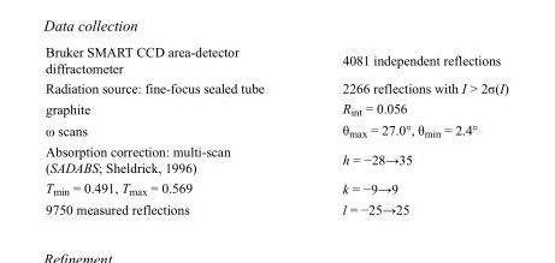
<table><tbody><tr><td>Bruker SMART CCD area-detector diffractometer</td><td>4081 independent reflections</td></tr><tr><td>Radiation source: fine-focus sealed tube</td><td>2266 reflections with I &gt; 2σ(I)</td></tr><tr><td>graphite</td><td>R<sub>int</sub> = 0.056</td></tr><tr><td>ω scans</td><td>θ<sub>max</sub> = 27.0°, θ<sub>min</sub> = 2.4°</td></tr><tr><td>Absorption correction: multi-scan (SADABS; Sheldrick, 1996)</td><td>h = −28→35</td></tr><tr><td>T<sub>min</sub> = 0.491, T<sub>max</sub> = 0.569</td><td>k = −9→9</td></tr><tr><td>9750 measured reflections</td><td>l = −25→25</td></tr></tbody></table>